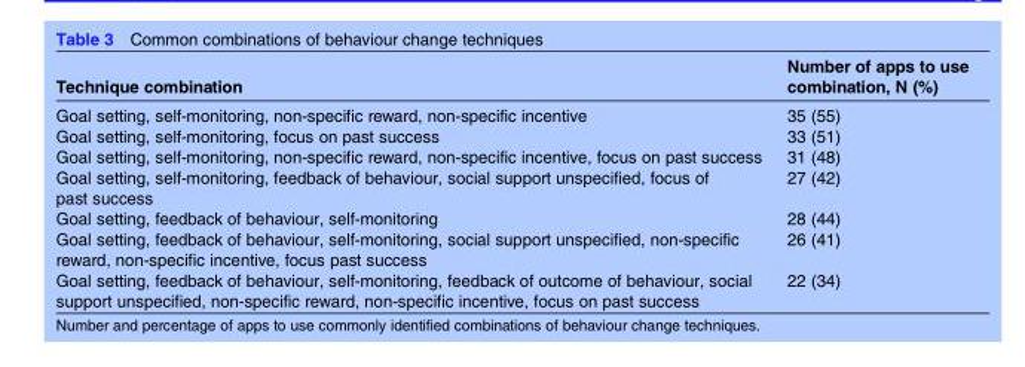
<table><thead><tr><td>Technique combination</td><td>Number of apps to use combination, N (%)</td></tr></thead><tbody><tr><td>Goal setting, self-monitoring, non-specific reward, non-specific incentive</td><td>35 (55)</td></tr><tr><td>Goal setting, self-monitoring, focus on past success</td><td>33 (51)</td></tr><tr><td>Goal setting, self-monitoring, non-specific reward, non-specific incentive, focus on past success</td><td>31 (48)</td></tr><tr><td>Goal setting, self-monitoring, feedback of behaviour, social support unspecified, focus of past success</td><td>27 (42)</td></tr><tr><td>Goal setting, feedback of behaviour, self-monitoring</td><td>28 (44)</td></tr><tr><td>Goal setting, feedback of behaviour, self-monitoring, social support unspecified, non-specific reward, non-specific incentive, focus past success</td><td>26 (41)</td></tr><tr><td>Goal setting, feedback of behaviour, self-monitoring, feedback of outcome of behaviour, social support unspecified, non-specific reward, non-specific incentive, focus on past success</td><td>22 (34)</td></tr></tbody></table>